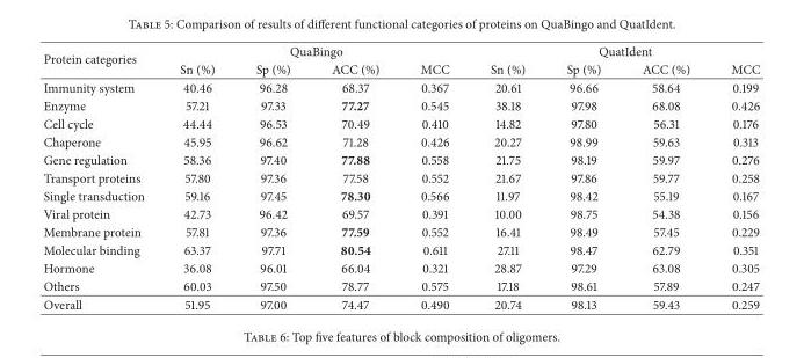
<table><thead><tr><td rowspan="2">Protein categories</td><td colspan="4">QuaBingo</td><td colspan="4">QuatIdent</td></tr><tr><td>Sn (%)</td><td>Sp (%)</td><td>ACC (%)</td><td>MCC</td><td>Sn (%)</td><td>Sp (%)</td><td>ACC (%)</td><td>MCC</td></tr></thead><tbody><tr><td>Immunity system</td><td>40.46</td><td>96.28</td><td>68.37</td><td>0.367</td><td>20.61</td><td>96.66</td><td>58.64</td><td>0.199</td></tr><tr><td>Enzyme</td><td>57.21</td><td>97.33</td><td>77.27</td><td>0.545</td><td>38.18</td><td>97.98</td><td>68.08</td><td>0.426</td></tr><tr><td>Cell cycle</td><td>44.44</td><td>96.53</td><td>70.49</td><td>0.410</td><td>14.82</td><td>97.80</td><td>56.31</td><td>0.176</td></tr><tr><td>Chaperone</td><td>45.95</td><td>96.62</td><td>71.28</td><td>0.426</td><td>20.27</td><td>98.99</td><td>59.63</td><td>0.313</td></tr><tr><td>Gene regulation</td><td>58.36</td><td>97.40</td><td>77.88</td><td>0.558</td><td>21.75</td><td>98.19</td><td>59.97</td><td>0.276</td></tr><tr><td>Transport proteins</td><td>57.80</td><td>97.36</td><td>77.58</td><td>0.552</td><td>21.67</td><td>97.86</td><td>59.77</td><td>0.258</td></tr><tr><td>Single transduction</td><td>59.16</td><td>97.45</td><td>78.30</td><td>0.566</td><td>11.97</td><td>98.42</td><td>55.19</td><td>0.167</td></tr><tr><td>Viral protein</td><td>42.73</td><td>96.42</td><td>69.57</td><td>0.391</td><td>10.00</td><td>98.75</td><td>54.38</td><td>0.156</td></tr><tr><td>Membrane protein</td><td>57.81</td><td>97.36</td><td>77.59</td><td>0.552</td><td>16.41</td><td>98.49</td><td>57.45</td><td>0.229</td></tr><tr><td>Molecular binding</td><td>63.37</td><td>97.71</td><td>80.54</td><td>0.611</td><td>27.11</td><td>98.47</td><td>62.79</td><td>0.351</td></tr><tr><td>Hormone</td><td>36.08</td><td>96.01</td><td>66.04</td><td>0.321</td><td>28.87</td><td>97.29</td><td>63.08</td><td>0.305</td></tr><tr><td>Others</td><td>60.03</td><td>97.50</td><td>78.77</td><td>0.575</td><td>17.18</td><td>98.61</td><td>57.89</td><td>0.247</td></tr><tr><td>Overall</td><td>51.95</td><td>97.00</td><td>74.47</td><td>0.490</td><td>20.74</td><td>98.13</td><td>59.43</td><td>0.259</td></tr></tbody></table>